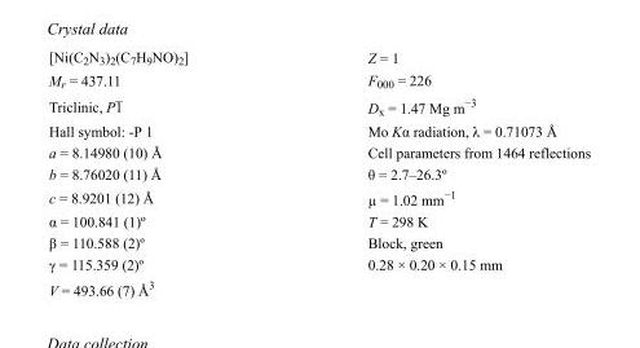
<table><tbody><tr><td>[Ni(C<sub>2</sub>N<sub>3</sub>)<sub>2</sub>(C<sub>7</sub>H<sub>9</sub>NO)<sub>2</sub>]</td><td>Z = 1</td></tr><tr><td>M<sub>r</sub> = 437.11</td><td>F000 = 226</td></tr><tr><td>Triclinic, P1</td><td>D<sub>x</sub> = 1.47 Mg m<sup>−3</sup></td></tr><tr><td>Hall symbol: -P 1</td><td>Mo Kα radiation, λ = 0.71073 Å</td></tr><tr><td>a = 8.14980 (10) Å</td><td>Cell parameters from 1464 reflections</td></tr><tr><td>b = 8.76020 (11) Å</td><td>θ = 2.7–26.3º</td></tr><tr><td>c = 8.9201 (12) Å</td><td>µ = 1.02 mm−1</td></tr><tr><td>α = 100.841 (1)º</td><td>T = 298 K</td></tr><tr><td>β = 110.588 (2)º</td><td>Block, green</td></tr><tr><td>γ = 115.359 (2)º</td><td>0.28 × 0.20 × 0.15 mm</td></tr><tr><td>V = 493.66 (7) Å<sup>3</sup></td><td></td></tr></tbody></table>